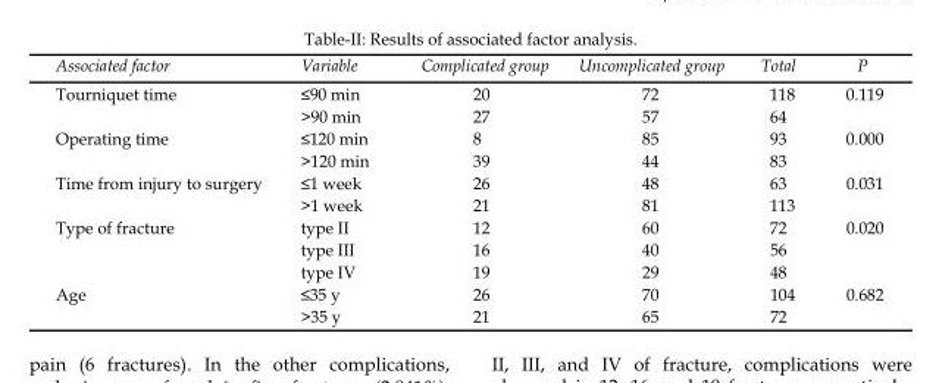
<table><thead><tr><td>Associated factor</td><td>Variable</td><td>Complicated group</td><td>Uncomplicated group</td><td>Total</td><td>P</td></tr></thead><tbody><tr><td rowspan="2">Tourniquet time</td><td>≤90 min</td><td>20</td><td>72</td><td>118</td><td>0.119</td></tr><tr><td>&gt;90 min</td><td>27</td><td>57</td><td>64</td><td></td></tr><tr><td rowspan="2">Operating time</td><td>≤120 min</td><td>8</td><td>85</td><td>93</td><td>0.000</td></tr><tr><td>&gt;120 min</td><td>39</td><td>44</td><td>83</td><td></td></tr><tr><td rowspan="2">Time from injury to surgery</td><td>≤1 week</td><td>26</td><td>48</td><td>63</td><td>0.031</td></tr><tr><td>&gt;1 week</td><td>21</td><td>81</td><td>113</td><td></td></tr><tr><td rowspan="3">Type of fracture</td><td>type II</td><td>12</td><td>60</td><td>72</td><td>0.020</td></tr><tr><td>type III</td><td>16</td><td>40</td><td>56</td><td></td></tr><tr><td>type IV</td><td>19</td><td>29</td><td>48</td><td></td></tr><tr><td rowspan="2">Age</td><td>≤35 y</td><td>26</td><td>70</td><td>104</td><td>0.682</td></tr><tr><td>&gt;35 y</td><td>21</td><td>65</td><td>72</td><td></td></tr></tbody></table>